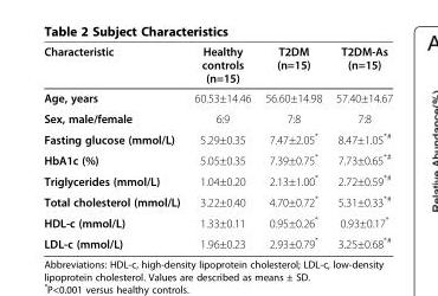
<table><thead><tr><td>Characteristic</td><td>Healthy controls (n=15)</td><td>T2DM (n=15)</td><td>T2DM-As (n=15)</td></tr></thead><tbody><tr><td>Age, years</td><td>60.53±14.46</td><td>56.60±14.98</td><td>57.40±14.67</td></tr><tr><td>Sex, male/female</td><td>6:9</td><td>7:8</td><td>7:8</td></tr><tr><td>Fasting glucose (mmol/L)</td><td>5.29±0.35</td><td>7.47±2.05*</td><td>8.47±1.05<sup>*#</sup></td></tr><tr><td>HbA1c (%)</td><td>5.05±0.35</td><td>7.39±0.75*</td><td>7.73±0.65<sup>*#</sup></td></tr><tr><td>Triglycerides (mmol/L)</td><td>1.04±0.20</td><td>2.13±1.00*</td><td>2.72±0.59<sup>*#</sup></td></tr><tr><td>Total cholesterol (mmol/L)</td><td>3.22±0.40</td><td>4.70±0.72*</td><td>5.31±0.33<sup>*#</sup></td></tr><tr><td>HDL-c (mmol/L)</td><td>1.33±0.11</td><td>0.95±0.26*</td><td>0.93±0.17*</td></tr><tr><td>LDL-c (mmol/L)</td><td>1.96±0.23</td><td>2.93±0.79*</td><td>3.25±0.68<sup>*#</sup></td></tr></tbody></table>